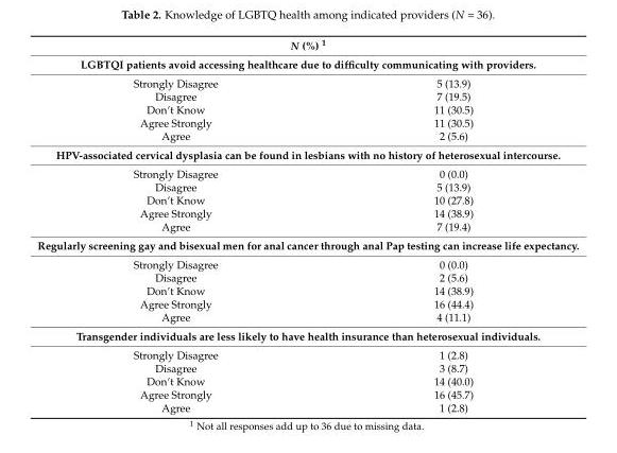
<table><thead><tr><td rowspan="2" colspan="2">N (%) <sup>1</sup> LGBTQI patients avoid accessing healthcare due to difficulty communicating with providers.</td></tr><tr></tr><tr><td>Strongly Disagree</td><td>5 (13.9)</td></tr></thead><tbody><tr><td>Disagree</td><td>7 (19.5)</td></tr><tr><td>Don’t Know</td><td>11 (30.5)</td></tr><tr><td>Agree Strongly</td><td>11 (30.5)</td></tr><tr><td>Agree</td><td>2 (5.6)</td></tr><tr><td colspan="2">HPV-associated cervical dysplasia can be found in lesbians with no history of heterosexual intercourse.</td></tr><tr><td>Strongly Disagree</td><td>0 (0.0)</td></tr><tr><td>Disagree</td><td>5 (13.9)</td></tr><tr><td>Don’t Know</td><td>10 (27.8)</td></tr><tr><td>Agree Strongly</td><td>14 (38.9)</td></tr><tr><td>Agree</td><td>7 (19.4)</td></tr><tr><td colspan="2">Regularly screening gay and bisexual men for anal cancer through anal Pap testing can increase life expectancy.</td></tr><tr><td>Strongly Disagree</td><td>0 (0.0)</td></tr><tr><td>Disagree</td><td>2 (5.6)</td></tr><tr><td>Don’t Know</td><td>14 (38.9)</td></tr><tr><td>Agree Strongly</td><td>16 (44.4)</td></tr><tr><td>Agree</td><td>4 (11.1)</td></tr><tr><td colspan="2">Transgender individuals are less likely to have health insurance than heterosexual individuals.</td></tr><tr><td>Strongly Disagree</td><td>1 (2.8)</td></tr><tr><td>Disagree</td><td>3 (8.7)</td></tr><tr><td>Don’t Know</td><td>14 (40.0)</td></tr><tr><td>Agree Strongly</td><td>16 (45.7)</td></tr><tr><td>Agree</td><td>1 (2.8)</td></tr></tbody></table>